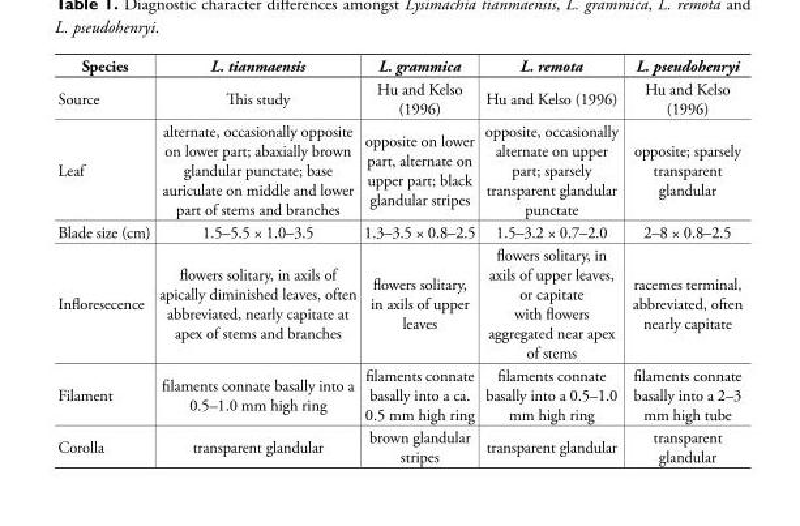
<table><thead><tr><td>Species</td><td>L. tianmaensis</td><td>L. grammica</td><td>L. remota</td><td>L. pseudohenryi</td></tr></thead><tbody><tr><td>Source</td><td>This study</td><td>Hu and Kelso (1996)</td><td>Hu and Kelso (1996)</td><td>Hu and Kelso (1996)</td></tr><tr><td>Leaf</td><td>alternate, occasionally opposite on lower part; abaxially brown glandular punctate; base auriculate on middle and lower part of stems and branches</td><td>opposite on lower part, alternate on upper part; black glandular stripes</td><td>opposite, occasionally alternate on upper part; sparsely transparent glandular punctate</td><td>opposite; sparsely transparent glandular</td></tr><tr><td>Blade size (cm)</td><td>1.5–5.5 × 1.0–3.5</td><td>1.3–3.5 × 0.8–2.5</td><td>1.5–3.2 × 0.7–2.0</td><td>2–8 × 0.8–2.5</td></tr><tr><td>Infloresecence</td><td>flowers solitary, in axils of apically diminished leaves, often abbreviated, nearly capitate at apex of stems and branches</td><td>flowers solitary, in axils of upper leaves</td><td>flowers solitary, in axils of upper leaves, or capitate with flowers aggregated near apex of stems</td><td>racemes terminal, abbreviated, often nearly capitate</td></tr><tr><td>Filament</td><td>filaments connate basally into a 0.5–1.0 mm high ring</td><td>filaments connate basally into a ca. 0.5 mm high ring</td><td>filaments connate basally into a 0.5–1.0 mm high ring</td><td>filaments connate basally into a 2–3 mm high tube</td></tr><tr><td>Corolla</td><td>transparent glandular</td><td>brown glandular stripes</td><td>transparent glandular</td><td>transparent glandular</td></tr></tbody></table>